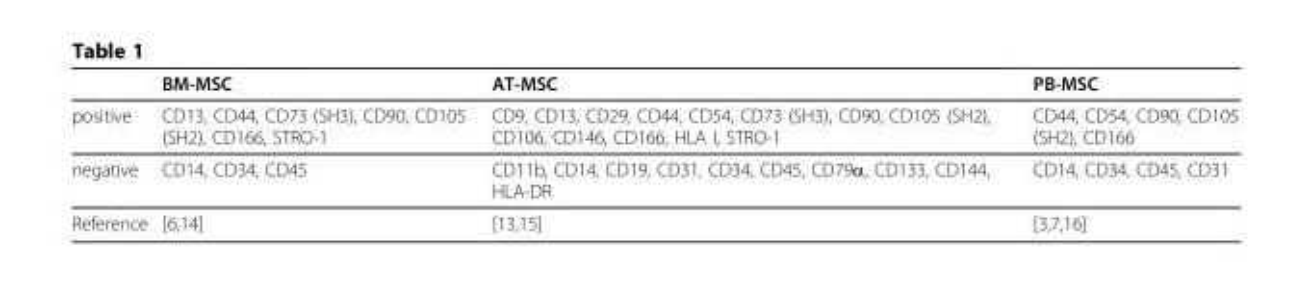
<table><thead><tr><td></td><td>BM-MSC</td><td>AT-MSC</td><td>PB-MSC</td></tr></thead><tbody><tr><td>positive</td><td>CD13, CD44, CD73 (SH3), CD90, CD105 (SH2), CD166, STRO-1</td><td>CD9, CD13, CD29, CD44, CD54, CD73 (SH3), CD90, CD105 (SH2), CD106, CD146, CD166, HLA I, STRO-1</td><td>CD44, CD54, CD90, CD105 (SH2), CD166</td></tr><tr><td>negative</td><td>CD14, CD34, CD45</td><td>CD11b, CD14, CD19, CD31, CD34, CD45, CD79α, CD133, CD144, HLA-DR</td><td>CD14, CD34, CD45, CD31</td></tr><tr><td>Reference</td><td>[6,14]</td><td>[13,15]</td><td>[3,7,16]</td></tr></tbody></table>